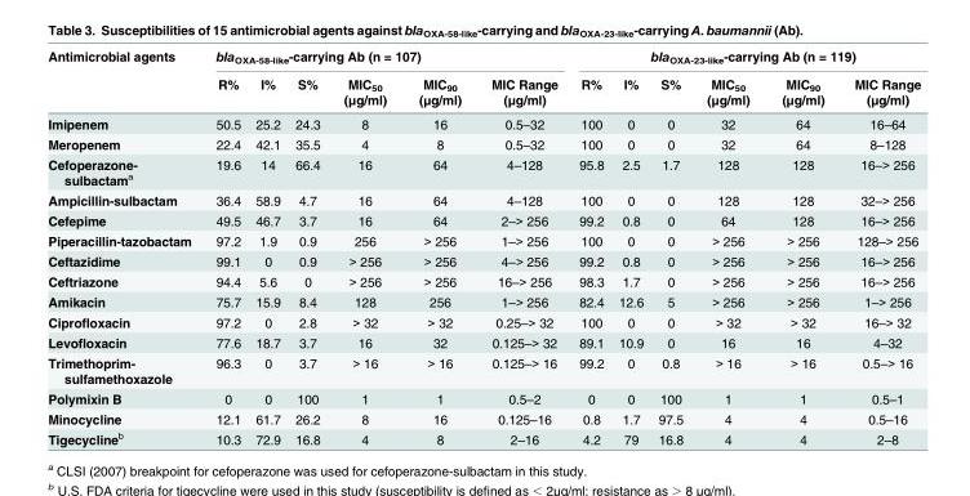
<table><thead><tr><td rowspan="2">Antimicrobial agents</td><td colspan="6">bla<sub>OXA-58-like</sub>-carrying Ab (n = 107)</td><td colspan="6">bla<sub>OXA-23-like</sub>-carrying Ab (n = 119)</td></tr><tr><td>R%</td><td>I%</td><td>S%</td><td>MIC<sub>50</sub> (μg/ml)</td><td>MIC<sub>90</sub> (μg/ml)</td><td>MIC Range (μg/ml)</td><td>R%</td><td>I%</td><td>S%</td><td>MIC<sub>50</sub> (μg/ml)</td><td>MIC<sub>90</sub> (μg/ml)</td><td>MIC Range (μg/ml)</td></tr></thead><tbody><tr><td>Imipenem</td><td>50.5</td><td>25.2</td><td>24.3</td><td>8</td><td>16</td><td>0.5–32</td><td>100</td><td>0</td><td>0</td><td>32</td><td>64</td><td>16–64</td></tr><tr><td>Meropenem</td><td>22.4</td><td>42.1</td><td>35.5</td><td>4</td><td>8</td><td>0.5–32</td><td>100</td><td>0</td><td>0</td><td>32</td><td>64</td><td>8–128</td></tr><tr><td>Cefoperazone- sulbactam<sup>a</sup></td><td>19.6</td><td>14</td><td>66.4</td><td>16</td><td>64</td><td>4–128</td><td>95.8</td><td>2.5</td><td>1.7</td><td>128</td><td>128</td><td>16–&gt; 256</td></tr><tr><td>Ampicillin-sulbactam</td><td>36.4</td><td>58.9</td><td>4.7</td><td>16</td><td>64</td><td>4–128</td><td>100</td><td>0</td><td>0</td><td>128</td><td>128</td><td>32–&gt; 256</td></tr><tr><td>Cefepime</td><td>49.5</td><td>46.7</td><td>3.7</td><td>16</td><td>64</td><td>2–&gt; 256</td><td>99.2</td><td>0.8</td><td>0</td><td>64</td><td>128</td><td>16–&gt; 256</td></tr><tr><td>Piperacillin-tazobactam</td><td>97.2</td><td>1.9</td><td>0.9</td><td>256</td><td>&gt; 256</td><td>1–&gt; 256</td><td>100</td><td>0</td><td>0</td><td>&gt; 256</td><td>&gt; 256</td><td>128–&gt; 256</td></tr><tr><td>Ceftazidime</td><td>99.1</td><td>0</td><td>0.9</td><td>&gt; 256</td><td>&gt; 256</td><td>4–&gt; 256</td><td>99.2</td><td>0.8</td><td>0</td><td>&gt; 256</td><td>&gt; 256</td><td>16–&gt; 256</td></tr><tr><td>Ceftriazone</td><td>94.4</td><td>5.6</td><td>0</td><td>&gt; 256</td><td>&gt; 256</td><td>16–&gt; 256</td><td>98.3</td><td>1.7</td><td>0</td><td>&gt; 256</td><td>&gt; 256</td><td>16–&gt; 256</td></tr><tr><td>Amikacin</td><td>75.7</td><td>15.9</td><td>8.4</td><td>128</td><td>256</td><td>1–&gt; 256</td><td>82.4</td><td>12.6</td><td>5</td><td>&gt; 256</td><td>&gt; 256</td><td>1–&gt; 256</td></tr><tr><td>Ciprofloxacin</td><td>97.2</td><td>0</td><td>2.8</td><td>&gt; 32</td><td>&gt; 32</td><td>0.25–&gt; 32</td><td>100</td><td>0</td><td>0</td><td>&gt; 32</td><td>&gt; 32</td><td>16–&gt; 32</td></tr><tr><td>Levofloxacin</td><td>77.6</td><td>18.7</td><td>3.7</td><td>16</td><td>32</td><td>0.125–&gt; 32</td><td>89.1</td><td>10.9</td><td>0</td><td>16</td><td>16</td><td>4–32</td></tr><tr><td>Trimethoprim- sulfamethoxazole</td><td>96.3</td><td>0</td><td>3.7</td><td>&gt; 16</td><td>&gt; 16</td><td>0.125–&gt; 16</td><td>99.2</td><td>0</td><td>0.8</td><td>&gt; 16</td><td>&gt; 16</td><td>0.5–&gt; 16</td></tr><tr><td>Polymixin B</td><td>0</td><td>0</td><td>100</td><td>1</td><td>1</td><td>0.5–2</td><td>0</td><td>0</td><td>100</td><td>1</td><td>1</td><td>0.5–1</td></tr><tr><td>Minocycline</td><td>12.1</td><td>61.7</td><td>26.2</td><td>8</td><td>16</td><td>0.125–16</td><td>0.8</td><td>1.7</td><td>97.5</td><td>4</td><td>4</td><td>0.5–16</td></tr><tr><td>Tigecycline<sup>b</sup></td><td>10.3</td><td>72.9</td><td>16.8</td><td>4</td><td>8</td><td>2–16</td><td>4.2</td><td>79</td><td>16.8</td><td>4</td><td>4</td><td>2–8</td></tr></tbody></table>